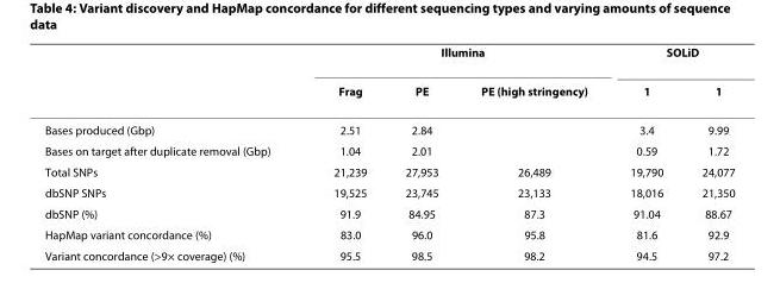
<table><thead><tr><td rowspan="2"></td><td colspan="3">Illumina</td><td colspan="2">SOLiD</td></tr><tr><td>Frag</td><td>PE</td><td>PE (high stringency)</td><td>1</td><td>1</td></tr></thead><tbody><tr><td>Bases produced (Gbp)</td><td>2.51</td><td>2.84</td><td></td><td>3.4</td><td>9.99</td></tr><tr><td>Bases on target after duplicate removal (Gbp)</td><td>1.04</td><td>2.01</td><td></td><td>0.59</td><td>1.72</td></tr><tr><td>Total SNPs</td><td>21,239</td><td>27,953</td><td>26,489</td><td>19,790</td><td>24,077</td></tr><tr><td>dbSNP SNPs</td><td>19,525</td><td>23,745</td><td>23,133</td><td>18,016</td><td>21,350</td></tr><tr><td>dbSNP (%)</td><td>91.9</td><td>84.95</td><td>87.3</td><td>91.04</td><td>88.67</td></tr><tr><td>HapMap variant concordance (%)</td><td>83.0</td><td>96.0</td><td>95.8</td><td>81.6</td><td>92.9</td></tr><tr><td>Variant concordance (&gt;9× coverage) (%)</td><td>95.5</td><td>98.5</td><td>98.2</td><td>94.5</td><td>97.2</td></tr></tbody></table>